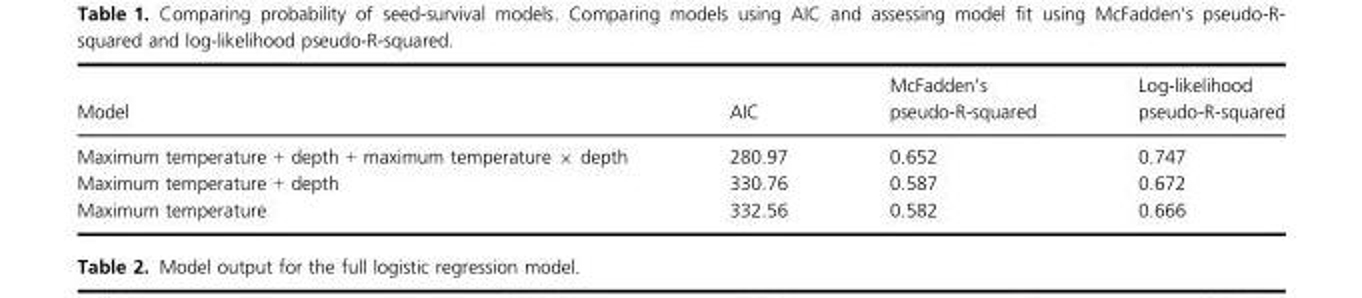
<table><thead><tr><td>Model</td><td>AIC</td><td>McFadden’s pseudo-R-squared</td><td>Log-likelihood pseudo-R-squared</td></tr></thead><tbody><tr><td>Maximum temperature + depth + maximum temperature × depth</td><td>280.97</td><td>0.652</td><td>0.747</td></tr><tr><td>Maximum temperature + depth</td><td>330.76</td><td>0.587</td><td>0.672</td></tr><tr><td>Maximum temperature</td><td>332.56</td><td>0.582</td><td>0.666</td></tr></tbody></table>